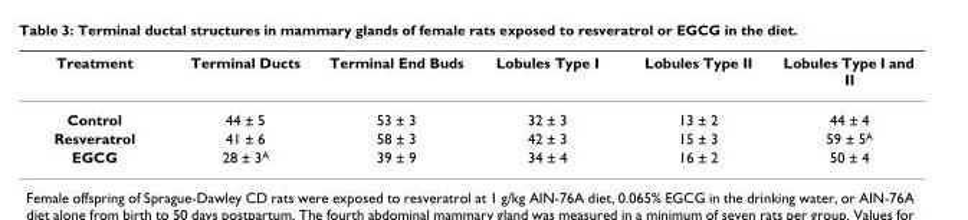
<table><thead><tr><td>Treatment</td><td>Terminal Ducts</td><td>Terminal End Buds</td><td>Lobules Type I</td><td>Lobules Type II</td><td>Lobules Type I and II</td></tr></thead><tbody><tr><td>Control</td><td>44 ± 5</td><td>53 ± 3</td><td>32 ± 3</td><td>13 ± 2</td><td>44 ± 4</td></tr><tr><td>Resveratrol</td><td>41 ± 6</td><td>58 ± 3</td><td>42 ± 3</td><td>15 ± 3</td><td>59 ± 5<sup>A</sup></td></tr><tr><td>EGCG</td><td>28 ± 3<sup>A</sup></td><td>39 ± 9</td><td>34 ± 4</td><td>16 ± 2</td><td>50 ± 4</td></tr></tbody></table>